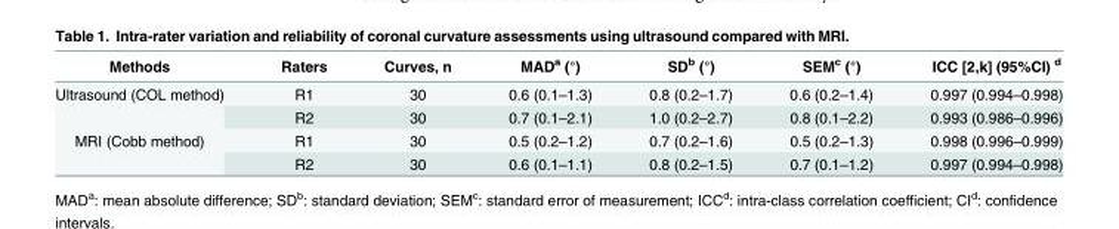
<table><thead><tr><td>Methods</td><td>Raters</td><td>Curves, n</td><td>MAD<sup>a</sup> (°)</td><td>SD<sup>b</sup> (°)</td><td>SEM<sup>c</sup> (°)</td><td>ICC [2,k] (95%CI) <sup>d</sup></td></tr></thead><tbody><tr><td rowspan="2">Ultrasound (COL method)</td><td>R1</td><td>30</td><td>0.6 (0.1–1.3)</td><td>0.8 (0.2–1.7)</td><td>0.6 (0.2–1.4)</td><td>0.997 (0.994–0.998)</td></tr><tr><td>R2</td><td>30</td><td>0.7 (0.1–2.1)</td><td>1.0 (0.2–2.7)</td><td>0.8 (0.1–2.2)</td><td>0.993 (0.986–0.996)</td></tr><tr><td rowspan="2">MRI (Cobb method)</td><td>R1</td><td>30</td><td>0.5 (0.2–1.2)</td><td>0.7 (0.2–1.6)</td><td>0.5 (0.2–1.3)</td><td>0.998 (0.996–0.999)</td></tr><tr><td>R2</td><td>30</td><td>0.6 (0.1–1.1)</td><td>0.8 (0.2–1.5)</td><td>0.7 (0.1–1.2)</td><td>0.997 (0.994–0.998)</td></tr></tbody></table>